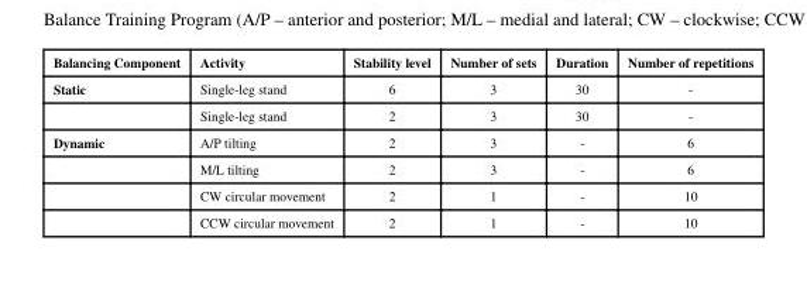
<table><thead><tr><td>Balancing Component</td><td>Activity</td><td>Stability level</td><td>Number of sets</td><td>Duration</td><td>Number of repetitions</td></tr></thead><tbody><tr><td rowspan="2">Static</td><td>Single-leg stand</td><td>6</td><td>3</td><td>30</td><td>-</td></tr><tr><td>Single-leg stand</td><td>2</td><td>3</td><td>30</td><td>-</td></tr><tr><td rowspan="4">Dynamic</td><td>A/P tilting</td><td>2</td><td>3</td><td>-</td><td>6</td></tr><tr><td>M/L tilting</td><td>2</td><td>3</td><td>-</td><td>6</td></tr><tr><td>CW circular movement</td><td>2</td><td>1</td><td>-</td><td>10</td></tr><tr><td>CCW circular movement</td><td>2</td><td>1</td><td>-</td><td>10</td></tr></tbody></table>